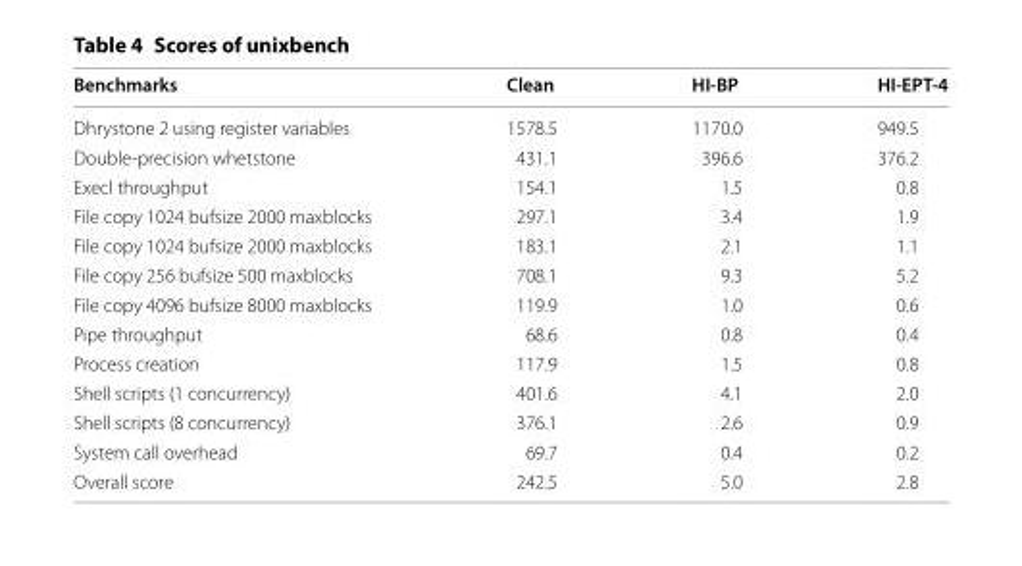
<table><thead><tr><td>Benchmarks</td><td>Clean</td><td>HI‑BP</td><td>HI‑EPT‑4</td></tr></thead><tbody><tr><td>Dhrystone 2 using register variables</td><td>1578.5</td><td>1170.0</td><td>949.5</td></tr><tr><td>Double-precision whetstone</td><td>431.1</td><td>396.6</td><td>376.2</td></tr><tr><td>Execl throughput</td><td>154.1</td><td>1.5</td><td>0.8</td></tr><tr><td>File copy 1024 bufsize 2000 maxblocks</td><td>297.1</td><td>3.4</td><td>1.9</td></tr><tr><td>File copy 1024 bufsize 2000 maxblocks</td><td>183.1</td><td>2.1</td><td>1.1</td></tr><tr><td>File copy 256 bufsize 500 maxblocks</td><td>708.1</td><td>9.3</td><td>5.2</td></tr><tr><td>File copy 4096 bufsize 8000 maxblocks</td><td>119.9</td><td>1.0</td><td>0.6</td></tr><tr><td>Pipe throughput</td><td>68.6</td><td>0.8</td><td>0.4</td></tr><tr><td>Process creation</td><td>117.9</td><td>1.5</td><td>0.8</td></tr><tr><td>Shell scripts (1 concurrency)</td><td>401.6</td><td>4.1</td><td>2.0</td></tr><tr><td>Shell scripts (8 concurrency)</td><td>376.1</td><td>2.6</td><td>0.9</td></tr><tr><td>System call overhead</td><td>69.7</td><td>0.4</td><td>0.2</td></tr><tr><td>Overall score</td><td>242.5</td><td>5.0</td><td>2.8</td></tr></tbody></table>